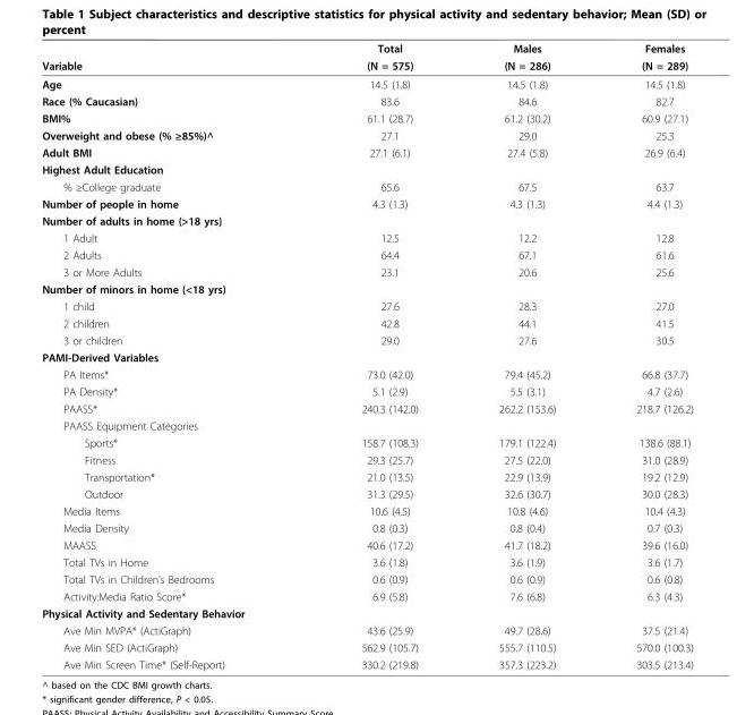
<table><thead><tr><td rowspan="2">Variable</td><td rowspan="2">Total (N = 575)</td><td rowspan="2">Males (N = 286)</td><td rowspan="2">Females (N = 289)</td></tr><tr></tr></thead><tbody><tr><td>Age</td><td>14.5 (1.8)</td><td>14.5 (1.8)</td><td>14.5 (1.8)</td></tr><tr><td>Race (% Caucasian)</td><td>83.6</td><td>84.6</td><td>82.7</td></tr><tr><td>BMI%</td><td>61.1 (28.7)</td><td>61.2 (30.2)</td><td>60.9 (27.1)</td></tr><tr><td>Overweight and obese (% ≥85%)^</td><td>27.1</td><td>29.0</td><td>25.3</td></tr><tr><td>Adult BMI</td><td>27.1 (6.1)</td><td>27.4 (5.8)</td><td>26.9 (6.4)</td></tr><tr><td colspan="4">Highest Adult Education</td></tr><tr><td>% ≥College graduate</td><td>65.6</td><td>67.5</td><td>63.7</td></tr><tr><td>Number of people in home</td><td>4.3 (1.3)</td><td>4.3 (1.3)</td><td>4.4 (1.3)</td></tr><tr><td colspan="4">Number of adults in home (&gt;18 yrs)</td></tr><tr><td>1 Adult</td><td>12.5</td><td>12.2</td><td>12.8</td></tr><tr><td>2 Adults</td><td>64.4</td><td>67.1</td><td>61.6</td></tr><tr><td>3 or More Adults</td><td>23.1</td><td>20.6</td><td>25.6</td></tr><tr><td colspan="4">Number of minors in home (&lt;18 yrs)</td></tr><tr><td>1 child</td><td>27.6</td><td>28.3</td><td>27.0</td></tr><tr><td>2 children</td><td>42.8</td><td>44.1</td><td>41.5</td></tr><tr><td>3 or children</td><td>29.0</td><td>27.6</td><td>30.5</td></tr><tr><td colspan="4">PAMI-Derived Variables</td></tr><tr><td>PA Items*</td><td>73.0 (42.0)</td><td>79.4 (45.2)</td><td>66.8 (37.7)</td></tr><tr><td>PA Density*</td><td>5.1 (2.9)</td><td>5.5 (3.1)</td><td>4.7 (2.6)</td></tr><tr><td>PAASS*</td><td>240.3 (142.0)</td><td>262.2 (153.6)</td><td>218.7 (126.2)</td></tr><tr><td colspan="4">PAASS Equipment Categories</td></tr><tr><td>Sports*</td><td>158.7 (108.3)</td><td>179.1 (122.4)</td><td>138.6 (88.1)</td></tr><tr><td>Fitness</td><td>29.3 (25.7)</td><td>27.5 (22.0)</td><td>31.0 (28.9)</td></tr><tr><td>Transportation*</td><td>21.0 (13.5)</td><td>22.9 (13.9)</td><td>19.2 (12.9)</td></tr><tr><td>Outdoor</td><td>31.3 (29.5)</td><td>32.6 (30.7)</td><td>30.0 (28.3)</td></tr><tr><td>Media Items</td><td>10.6 (4.5)</td><td>10.8 (4.6)</td><td>10.4 (4.3)</td></tr><tr><td>Media Density</td><td>0.8 (0.3)</td><td>0.8 (0.4)</td><td>0.7 (0.3)</td></tr><tr><td>MAASS</td><td>40.6 (17.2)</td><td>41.7 (18.2)</td><td>39.6 (16.0)</td></tr><tr><td>Total TVs in Home</td><td>3.6 (1.8)</td><td>3.6 (1.9)</td><td>3.6 (1.7)</td></tr><tr><td>Total TVs in Children’s Bedrooms</td><td>0.6 (0.9)</td><td>0.6 (0.9)</td><td>0.6 (0.8)</td></tr><tr><td>Activity:Media Ratio Score*</td><td>6.9 (5.8)</td><td>7.6 (6.8)</td><td>6.3 (4.3)</td></tr><tr><td colspan="4">Physical Activity and Sedentary Behavior</td></tr><tr><td>Ave Min MVPA* (ActiGraph)</td><td>43.6 (25.9)</td><td>49.7 (28.6)</td><td>37.5 (21.4)</td></tr><tr><td>Ave Min SED (ActiGraph)</td><td>562.9 (105.7)</td><td>555.7 (110.5)</td><td>570.0 (100.3)</td></tr><tr><td>Ave Min Screen Time* (Self-Report)</td><td>330.2 (219.8)</td><td>357.3 (223.2)</td><td>303.5 (213.4)</td></tr></tbody></table>